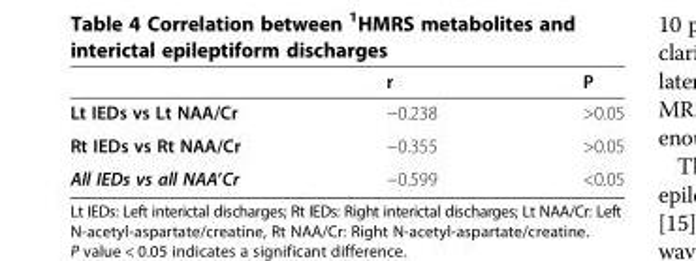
<table><thead><tr><td></td><td>r</td><td>P</td></tr></thead><tbody><tr><td>Lt IEDs vs Lt NAA/Cr</td><td>−0.238</td><td>&gt;0.05</td></tr><tr><td>Rt IEDs vs Rt NAA/Cr</td><td>−0.355</td><td>&gt;0.05</td></tr><tr><td>All IEDs vs all NAA’Cr</td><td>−0.599</td><td>&lt;0.05</td></tr></tbody></table>